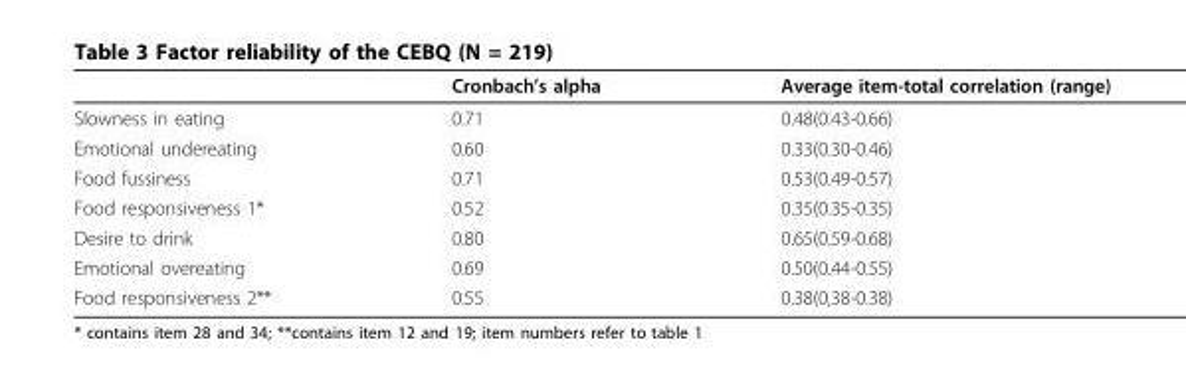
<table><thead><tr><td></td><td>Cronbach’s alpha</td><td>Average item-total correlation (range)</td></tr></thead><tbody><tr><td>Slowness in eating</td><td>0.71</td><td>0.48(0.43-0.66)</td></tr><tr><td>Emotional undereating</td><td>0.60</td><td>0.33(0.30-0.46)</td></tr><tr><td>Food fussiness</td><td>0.71</td><td>0.53(0.49-0.57)</td></tr><tr><td>Food responsiveness 1*</td><td>0.52</td><td>0.35(0.35-0.35)</td></tr><tr><td>Desire to drink</td><td>0.80</td><td>0.65(0.59-0.68)</td></tr><tr><td>Emotional overeating</td><td>0.69</td><td>0.50(0.44-0.55)</td></tr><tr><td>Food responsiveness 2**</td><td>0.55</td><td>0.38(0,38-0.38)</td></tr></tbody></table>